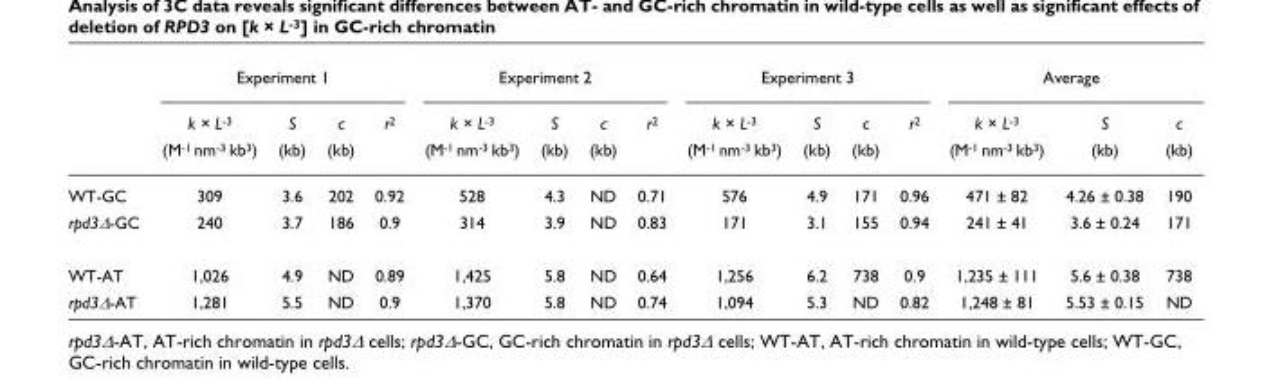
<table><thead><tr><td rowspan="3"></td><td colspan="4">Experiment 1</td><td colspan="4">Experiment 2</td><td colspan="4">Experiment 3</td><td colspan="3">Average</td></tr><tr><td rowspan="2">k × L<sup>-3</sup> (M<sup>-1</sup> nm<sup>-3</sup> kb<sup>3</sup>)</td><td rowspan="2">S (kb)</td><td rowspan="2">c (kb)</td><td rowspan="2">r<sup>2</sup></td><td rowspan="2">k × L<sup>-3</sup> (M<sup>-1</sup> nm<sup>-3</sup> kb<sup>3</sup>)</td><td rowspan="2">S (kb)</td><td rowspan="2">c (kb)</td><td rowspan="2">r<sup>2</sup></td><td rowspan="2">k × L<sup>-3</sup> (M<sup>-1</sup> nm<sup>-3</sup> kb<sup>3</sup>)</td><td rowspan="2">S (kb)</td><td rowspan="2">c (kb)</td><td rowspan="2">r<sup>2</sup></td><td rowspan="2">k × L<sup>-3</sup> (M<sup>-1</sup> nm<sup>-3</sup> kb<sup>3</sup>)</td><td rowspan="2">S (kb)</td><td rowspan="2">c (kb)</td></tr><tr></tr></thead><tbody><tr><td>WT-GC</td><td>309</td><td>3.6</td><td>202</td><td>0.92</td><td>528</td><td>4.3</td><td>ND</td><td>0.71</td><td>576</td><td>4.9</td><td>171</td><td>0.96</td><td>471 ± 82</td><td>4.26 ± 0.38</td><td>190</td></tr><tr><td>rpd3Δ-GC</td><td>240</td><td>3.7</td><td>186</td><td>0.9</td><td>314</td><td>3.9</td><td>ND</td><td>0.83</td><td>171</td><td>3.1</td><td>155</td><td>0.94</td><td>241 ± 41</td><td>3.6 ± 0.24</td><td>171</td></tr><tr><td>WT-AT</td><td>1,026</td><td>4.9</td><td>ND</td><td>0.89</td><td>1,425</td><td>5.8</td><td>ND</td><td>0.64</td><td>1,256</td><td>6.2</td><td>738</td><td>0.9</td><td>1,235 ± 111</td><td>5.6 ± 0.38</td><td>738</td></tr><tr><td>rpd3Δ-AT</td><td>1,281</td><td>5.5</td><td>ND</td><td>0.9</td><td>1,370</td><td>5.8</td><td>ND</td><td>0.74</td><td>1,094</td><td>5.3</td><td>ND</td><td>0.82</td><td>1,248 ± 81</td><td>5.53 ± 0.15</td><td>ND</td></tr></tbody></table>